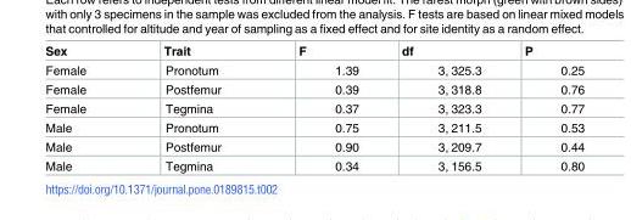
<table><thead><tr><td>Sex</td><td>Trait</td><td>F</td><td>df</td><td>P</td></tr></thead><tbody><tr><td>Female</td><td>Pronotum</td><td>1.39</td><td>3, 325.3</td><td>0.25</td></tr><tr><td>Female</td><td>Postfemur</td><td>0.39</td><td>3, 318.8</td><td>0.76</td></tr><tr><td>Female</td><td>Tegmina</td><td>0.37</td><td>3, 323.3</td><td>0.77</td></tr><tr><td>Male</td><td>Pronotum</td><td>0.75</td><td>3, 211.5</td><td>0.53</td></tr><tr><td>Male</td><td>Postfemur</td><td>0.90</td><td>3, 209.7</td><td>0.44</td></tr><tr><td>Male</td><td>Tegmina</td><td>0.34</td><td>3, 156.5</td><td>0.80</td></tr></tbody></table>